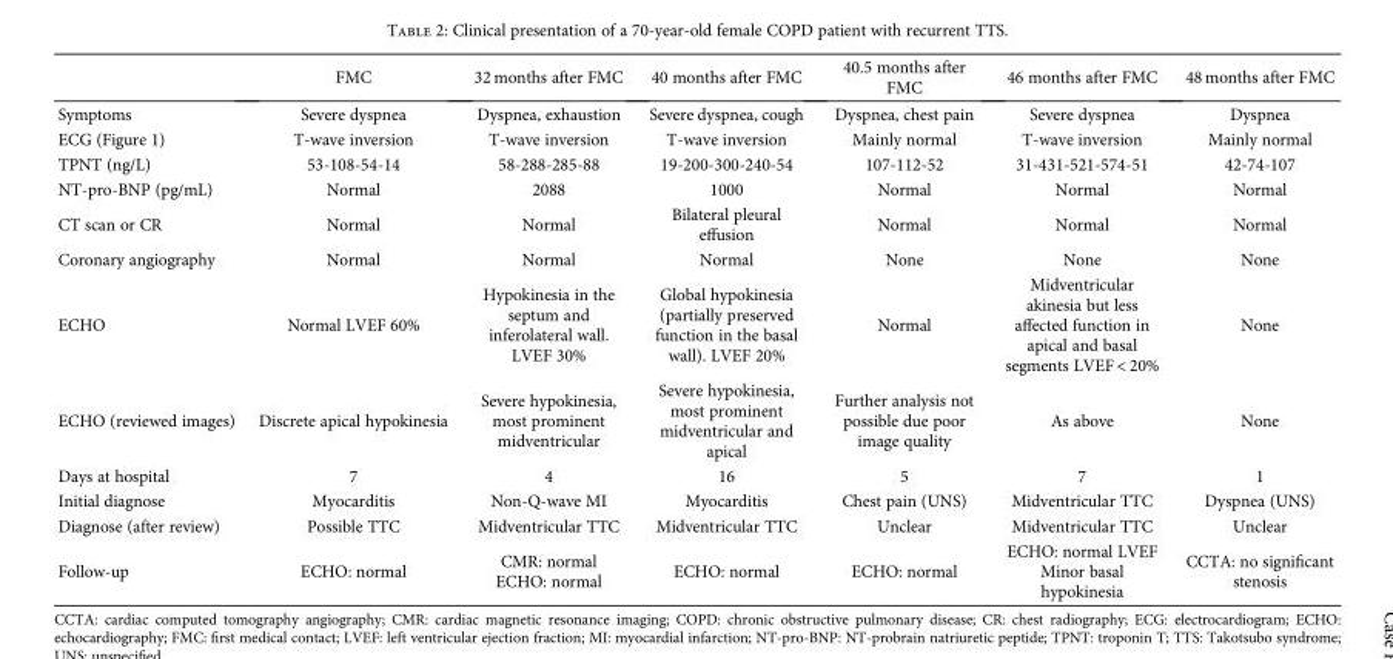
<table><thead><tr><td></td><td>FMC</td><td>32 months after FMC</td><td>40 months after FMC</td><td>40.5 months after FMC</td><td>46 months after FMC</td><td>48 months after FMC</td></tr></thead><tbody><tr><td>Symptoms</td><td>Severe dyspnea</td><td>Dyspnea, exhaustion</td><td>Severe dyspnea, cough</td><td>Dyspnea, chest pain</td><td>Severe dyspnea</td><td>Dyspnea</td></tr><tr><td>ECG (Figure 1)</td><td>T-wave inversion</td><td>T-wave inversion</td><td>T-wave inversion</td><td>Mainly normal</td><td>T-wave inversion</td><td>Mainly normal</td></tr><tr><td>TPNT (ng/L)</td><td>53-108-54-14</td><td>58-288-285-88</td><td>19-200-300-240-54</td><td>107-112-52</td><td>31-431-521-574-51</td><td>42-74-107</td></tr><tr><td>NT-pro-BNP (pg/mL)</td><td>Normal</td><td>2088</td><td>1000</td><td>Normal</td><td>Normal</td><td>Normal</td></tr><tr><td>CT scan or CR</td><td>Normal</td><td>Normal</td><td>Bilateral pleural effusion</td><td>Normal</td><td>Normal</td><td>Normal</td></tr><tr><td>Coronary angiography</td><td>Normal</td><td>Normal</td><td>Normal</td><td>None</td><td>None</td><td>None</td></tr><tr><td>ECHO</td><td>Normal LVEF 60%</td><td>Hypokinesia in the septum and inferolateral wall. LVEF 30%</td><td>Global hypokinesia (partially preserved function in the basal wall). LVEF 20%</td><td>Normal</td><td>Midventricular akinesia but less affected function in apical and basal segments LVEF &lt; 20%</td><td>None</td></tr><tr><td>ECHO (reviewed images)</td><td>Discrete apical hypokinesia</td><td>Severe hypokinesia, most prominent midventricular</td><td>Severe hypokinesia, most prominent midventricular and apical</td><td>Further analysis not possible due poor image quality</td><td>As above</td><td>None</td></tr><tr><td>Days at hospital</td><td>7</td><td>4</td><td>16</td><td>5</td><td>7</td><td>1</td></tr><tr><td>Initial diagnose</td><td>Myocarditis</td><td>Non-Q-wave MI</td><td>Myocarditis</td><td>Chest pain (UNS)</td><td>Midventricular TTC</td><td>Dyspnea (UNS)</td></tr><tr><td>Diagnose (after review)</td><td>Possible TTC</td><td>Midventricular TTC</td><td>Midventricular TTC</td><td>Unclear</td><td>Midventricular TTC</td><td>Unclear</td></tr><tr><td>Follow-up</td><td>ECHO: normal</td><td>CMR: normal ECHO: normal</td><td>ECHO: normal</td><td>ECHO: normal</td><td>ECHO: normal LVEF Minor basal hypokinesia</td><td>CCTA: no significant stenosis</td></tr></tbody></table>